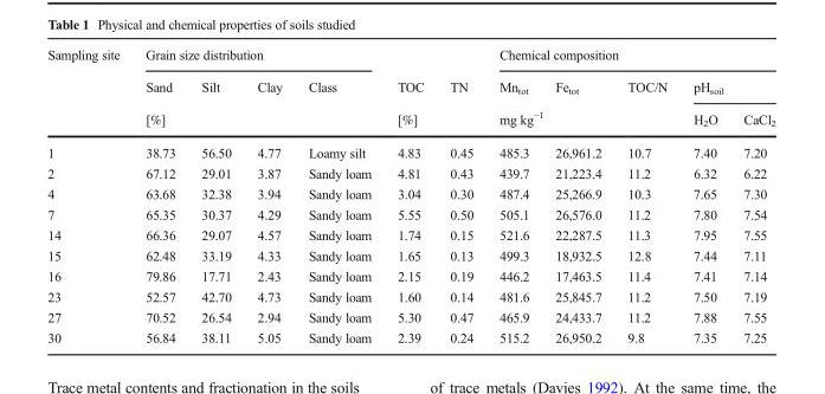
<table><thead><tr><td rowspan="3">Sampling site</td><td colspan="4">Grain size distribution</td><td rowspan="2">TOC</td><td rowspan="2">TN</td><td colspan="5">Chemical composition</td></tr><tr><td>Sand</td><td>Silt</td><td>Clay</td><td rowspan="2">Class</td><td>Mn<sub>tot</sub></td><td>Fe<sub>tot</sub></td><td rowspan="2">TOC/N</td><td colspan="2">pH<sub>soil</sub></td></tr><tr><td colspan="3">[%]</td><td colspan="2">[%]</td><td colspan="2">mg kg<sup>−1</sup></td><td>H<sub>2</sub>O</td><td>CaCl<sub>2</sub></td></tr></thead><tbody><tr><td>1</td><td>38.73</td><td>56.50</td><td>4.77</td><td>Loamy silt</td><td>4.83</td><td>0.45</td><td>485.3</td><td>26,961.2</td><td>10.7</td><td>7.40</td><td>7.20</td></tr><tr><td>2</td><td>67.12</td><td>29.01</td><td>3.87</td><td>Sandy loam</td><td>4.81</td><td>0.43</td><td>439.7</td><td>21,223.4</td><td>11.2</td><td>6.32</td><td>6.22</td></tr><tr><td>4</td><td>63.68</td><td>32.38</td><td>3.94</td><td>Sandy loam</td><td>3.04</td><td>0.30</td><td>487.4</td><td>25,266.9</td><td>10.3</td><td>7.65</td><td>7.30</td></tr><tr><td>7</td><td>65.35</td><td>30.37</td><td>4.29</td><td>Sandy loam</td><td>5.55</td><td>0.50</td><td>505.1</td><td>26,576.0</td><td>11.2</td><td>7.80</td><td>7.54</td></tr><tr><td>14</td><td>66.36</td><td>29.07</td><td>4.57</td><td>Sandy loam</td><td>1.74</td><td>0.15</td><td>521.6</td><td>22,287.5</td><td>11.3</td><td>7.95</td><td>7.55</td></tr><tr><td>15</td><td>62.48</td><td>33.19</td><td>4.33</td><td>Sandy loam</td><td>1.65</td><td>0.13</td><td>499.3</td><td>18,932.5</td><td>12.8</td><td>7.44</td><td>7.11</td></tr><tr><td>16</td><td>79.86</td><td>17.71</td><td>2.43</td><td>Sandy loam</td><td>2.15</td><td>0.19</td><td>446.2</td><td>17,463.5</td><td>11.4</td><td>7.41</td><td>7.14</td></tr><tr><td>23</td><td>52.57</td><td>42.70</td><td>4.73</td><td>Sandy loam</td><td>1.60</td><td>0.14</td><td>481.6</td><td>25,845.7</td><td>11.2</td><td>7.50</td><td>7.19</td></tr><tr><td>27</td><td>70.52</td><td>26.54</td><td>2.94</td><td>Sandy loam</td><td>5.30</td><td>0.47</td><td>465.9</td><td>24,433.7</td><td>11.2</td><td>7.88</td><td>7.55</td></tr><tr><td>30</td><td>56.84</td><td>38.11</td><td>5.05</td><td>Sandy loam</td><td>2.39</td><td>0.24</td><td>515.2</td><td>26,950.2</td><td>9.8</td><td>7.35</td><td>7.25</td></tr></tbody></table>